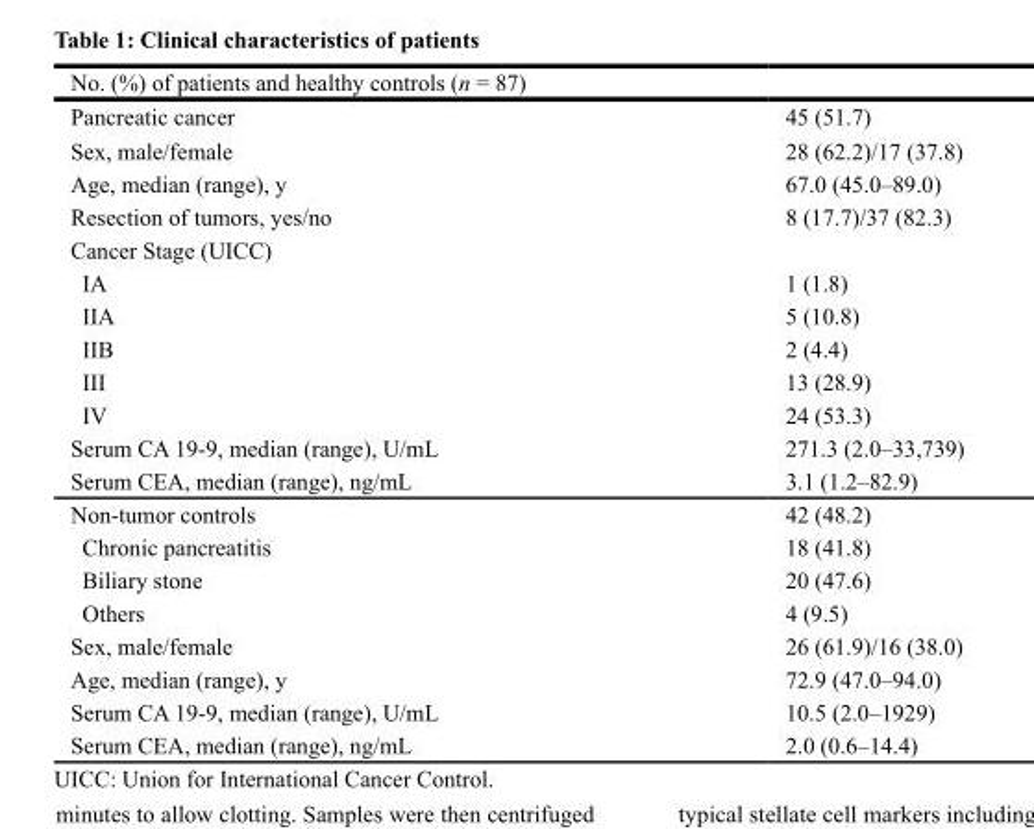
<table><tbody><tr><td colspan="2">No. (%) of patients and healthy controls (n = 87)</td></tr><tr><td>Pancreatic cancer</td><td>45 (51.7)</td></tr><tr><td>Sex, male/female</td><td>28 (62.2)/17 (37.8)</td></tr><tr><td>Age, median (range), y</td><td>67.0 (45.0–89.0)</td></tr><tr><td>Resection of tumors, yes/no</td><td>8 (17.7)/37 (82.3)</td></tr><tr><td colspan="2">Cancer Stage (UICC)</td></tr><tr><td>IA</td><td>1 (1.8)</td></tr><tr><td>IIA</td><td>5 (10.8)</td></tr><tr><td>IIB</td><td>2 (4.4)</td></tr><tr><td>III</td><td>13 (28.9)</td></tr><tr><td>IV</td><td>24 (53.3)</td></tr><tr><td>Serum CA 19-9, median (range), U/mL</td><td>271.3 (2.0–33,739)</td></tr><tr><td>Serum CEA, median (range), ng/mL</td><td>3.1 (1.2–82.9)</td></tr><tr><td>Non-tumor controls</td><td>42 (48.2)</td></tr><tr><td>Chronic pancreatitis</td><td>18 (41.8)</td></tr><tr><td>Biliary stone</td><td>20 (47.6)</td></tr><tr><td>Others</td><td>4 (9.5)</td></tr><tr><td>Sex, male/female</td><td>26 (61.9)/16 (38.0)</td></tr><tr><td>Age, median (range), y</td><td>72.9 (47.0–94.0)</td></tr><tr><td>Serum CA 19-9, median (range), U/mL</td><td>10.5 (2.0–1929)</td></tr><tr><td>Serum CEA, median (range), ng/mL</td><td>2.0 (0.6–14.4)</td></tr></tbody></table>